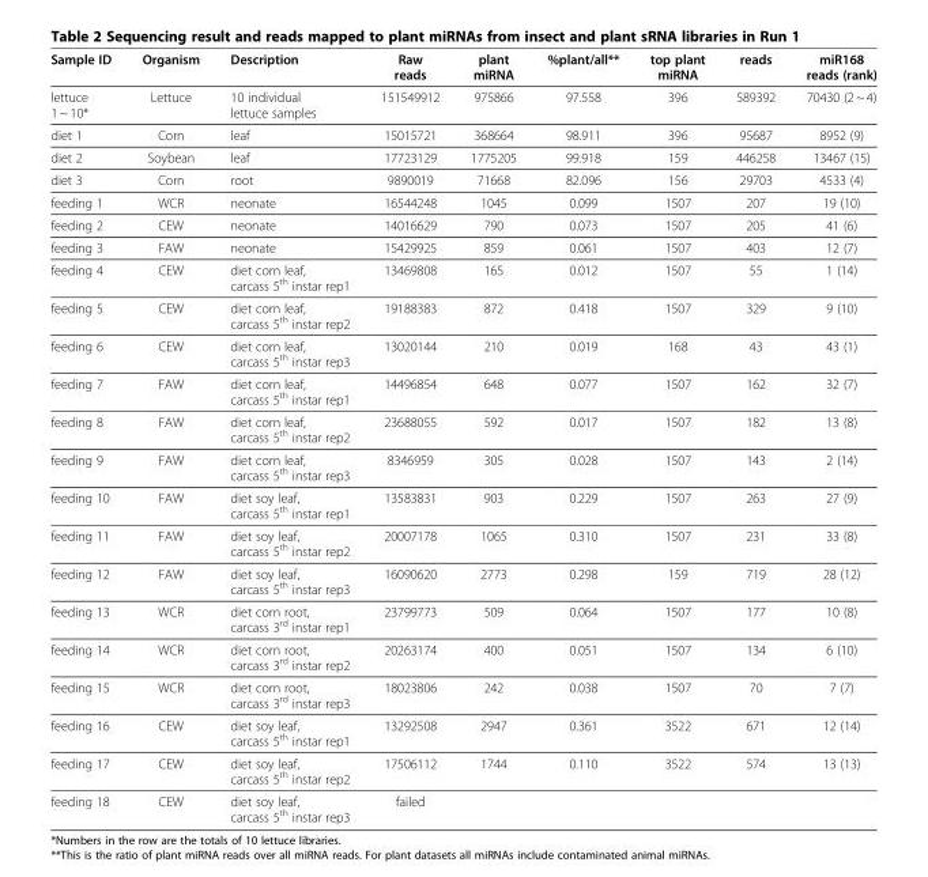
<table><thead><tr><td>Sample ID</td><td>Organism</td><td>Description</td><td>Raw reads</td><td>plant miRNA</td><td>%plant/all**</td><td>top plant miRNA</td><td>reads</td><td>miR168 reads (rank)</td></tr></thead><tbody><tr><td>lettuce 1 ~ 10*</td><td>Lettuce</td><td>10 individual lettuce samples</td><td>151549912</td><td>975866</td><td>97.558</td><td>396</td><td>589392</td><td>70430 (2 ~ 4)</td></tr><tr><td>diet 1</td><td>Corn</td><td>leaf</td><td>15015721</td><td>368664</td><td>98.911</td><td>396</td><td>95687</td><td>8952 (9)</td></tr><tr><td>diet 2</td><td>Soybean</td><td>leaf</td><td>17723129</td><td>1775205</td><td>99.918</td><td>159</td><td>446258</td><td>13467 (15)</td></tr><tr><td>diet 3</td><td>Corn</td><td>root</td><td>9890019</td><td>71668</td><td>82.096</td><td>156</td><td>29703</td><td>4533 (4)</td></tr><tr><td>feeding 1</td><td>WCR</td><td>neonate</td><td>16544248</td><td>1045</td><td>0.099</td><td>1507</td><td>207</td><td>19 (10)</td></tr><tr><td>feeding 2</td><td>CEW</td><td>neonate</td><td>14016629</td><td>790</td><td>0.073</td><td>1507</td><td>205</td><td>41 (6)</td></tr><tr><td>feeding 3</td><td>FAW</td><td>neonate</td><td>15429925</td><td>859</td><td>0.061</td><td>1507</td><td>403</td><td>12 (7)</td></tr><tr><td>feeding 4</td><td>CEW</td><td>diet corn leaf, carcass 5<sup>th</sup> instar rep1</td><td>13469808</td><td>165</td><td>0.012</td><td>1507</td><td>55</td><td>1 (14)</td></tr><tr><td>feeding 5</td><td>CEW</td><td>diet corn leaf, carcass 5<sup>th</sup> instar rep2</td><td>19188383</td><td>872</td><td>0.418</td><td>1507</td><td>329</td><td>9 (10)</td></tr><tr><td>feeding 6</td><td>CEW</td><td>diet corn leaf, carcass 5<sup>th</sup> instar rep3</td><td>13020144</td><td>210</td><td>0.019</td><td>168</td><td>43</td><td>43 (1)</td></tr><tr><td>feeding 7</td><td>FAW</td><td>diet corn leaf, carcass 5<sup>th</sup> instar rep1</td><td>14496854</td><td>648</td><td>0.077</td><td>1507</td><td>162</td><td>32 (7)</td></tr><tr><td>feeding 8</td><td>FAW</td><td>diet corn leaf, carcass 5<sup>th</sup> instar rep2</td><td>23688055</td><td>592</td><td>0.017</td><td>1507</td><td>182</td><td>13 (8)</td></tr><tr><td>feeding 9</td><td>FAW</td><td>diet corn leaf, carcass 5<sup>th</sup> instar rep3</td><td>8346959</td><td>305</td><td>0.028</td><td>1507</td><td>143</td><td>2 (14)</td></tr><tr><td>feeding 10</td><td>FAW</td><td>diet soy leaf, carcass 5<sup>th</sup> instar rep1</td><td>13583831</td><td>903</td><td>0.229</td><td>1507</td><td>263</td><td>27 (9)</td></tr><tr><td>feeding 11</td><td>FAW</td><td>diet soy leaf, carcass 5<sup>th</sup> instar rep2</td><td>20007178</td><td>1065</td><td>0.310</td><td>1507</td><td>231</td><td>33 (8)</td></tr><tr><td>feeding 12</td><td>FAW</td><td>diet soy leaf, carcass 5<sup>th</sup> instar rep3</td><td>16090620</td><td>2773</td><td>0.298</td><td>159</td><td>719</td><td>28 (12)</td></tr><tr><td>feeding 13</td><td>WCR</td><td>diet corn root, carcass 3<sup>rd</sup> instar rep1</td><td>23799773</td><td>509</td><td>0.064</td><td>1507</td><td>177</td><td>10 (8)</td></tr><tr><td>feeding 14</td><td>WCR</td><td>diet corn root, carcass 3<sup>rd</sup> instar rep2</td><td>20263174</td><td>400</td><td>0.051</td><td>1507</td><td>134</td><td>6 (10)</td></tr><tr><td>feeding 15</td><td>WCR</td><td>diet corn root, carcass 3<sup>rd</sup> instar rep3</td><td>18023806</td><td>242</td><td>0.038</td><td>1507</td><td>70</td><td>7 (7)</td></tr><tr><td>feeding 16</td><td>CEW</td><td>diet soy leaf, carcass 5<sup>th</sup> instar rep1</td><td>13292508</td><td>2947</td><td>0.361</td><td>3522</td><td>671</td><td>12 (14)</td></tr><tr><td>feeding 17</td><td>CEW</td><td>diet soy leaf, carcass 5<sup>th</sup> instar rep2</td><td>17506112</td><td>1744</td><td>0.110</td><td>3522</td><td>574</td><td>13 (13)</td></tr><tr><td>feeding 18</td><td>CEW</td><td>diet soy leaf, carcass 5<sup>th</sup> instar rep3</td><td>failed</td><td></td><td></td><td></td><td></td><td></td></tr></tbody></table>